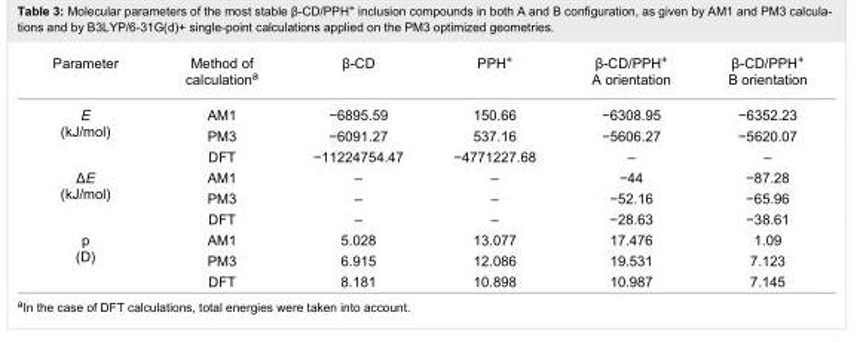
<table><tbody><tr><td>Parameter</td><td>Method of calculation<sup>a</sup></td><td>β-CD</td><td>PPH<sup>+</sup></td><td>β-CD/PPH<sup>+</sup> A orientation</td><td>β-CD/PPH<sup>+</sup> B orientation</td></tr><tr><td rowspan="3">E (kJ/mol)</td><td>AM1</td><td>−6895.59</td><td>150.66</td><td>−6308.95</td><td>−6352.23</td></tr><tr><td>PM3</td><td>−6091.27</td><td>537.16</td><td>−5606.27</td><td>−5620.07</td></tr><tr><td>DFT</td><td>−11224754.47</td><td>−4771227.68</td><td>–</td><td>–</td></tr><tr><td rowspan="3">ΔE (kJ/mol)</td><td>AM1</td><td>–</td><td>–</td><td>−44</td><td>−87.28</td></tr><tr><td>PM3</td><td>–</td><td>–</td><td>−52.16</td><td>−65.96</td></tr><tr><td>DFT</td><td>–</td><td>–</td><td>−28.63</td><td>−38.61</td></tr><tr><td rowspan="3">p (D)</td><td>AM1</td><td>5.028</td><td>13.077</td><td>17.476</td><td>1.09</td></tr><tr><td>PM3</td><td>6.915</td><td>12.086</td><td>19.531</td><td>7.123</td></tr><tr><td>DFT</td><td>8.181</td><td>10.898</td><td>10.987</td><td>7.145</td></tr></tbody></table>